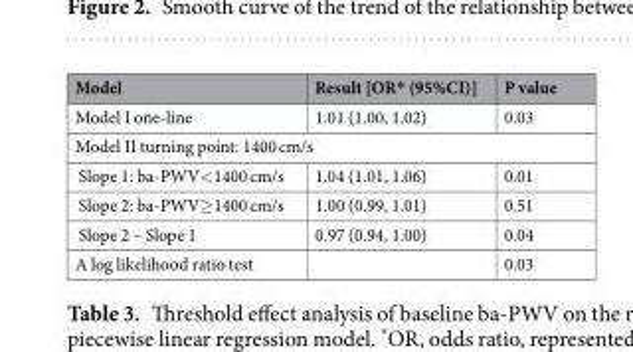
<table><thead><tr><td>Model</td><td>Result [OR* (95%CI)]</td><td>P value</td></tr></thead><tbody><tr><td>Model I one-line</td><td>1.01 (1.00, 1.02)</td><td>0.03</td></tr><tr><td colspan="3">Model II turning point: 1400 cm/s</td></tr><tr><td>Slope 1: ba-PWV&lt;1400 cm/s</td><td>1.04 (1.01, 1.06)</td><td>0.01</td></tr><tr><td>Slope 2: ba-PWV≥1400 cm/s</td><td>1.00 (0.99, 1.01)</td><td>0.51</td></tr><tr><td>Slope 2 – Slope 1</td><td>0.97 (0.94, 1.00)</td><td>0.04</td></tr><tr><td>A log likelihood ratio test</td><td></td><td>0.03</td></tr></tbody></table>